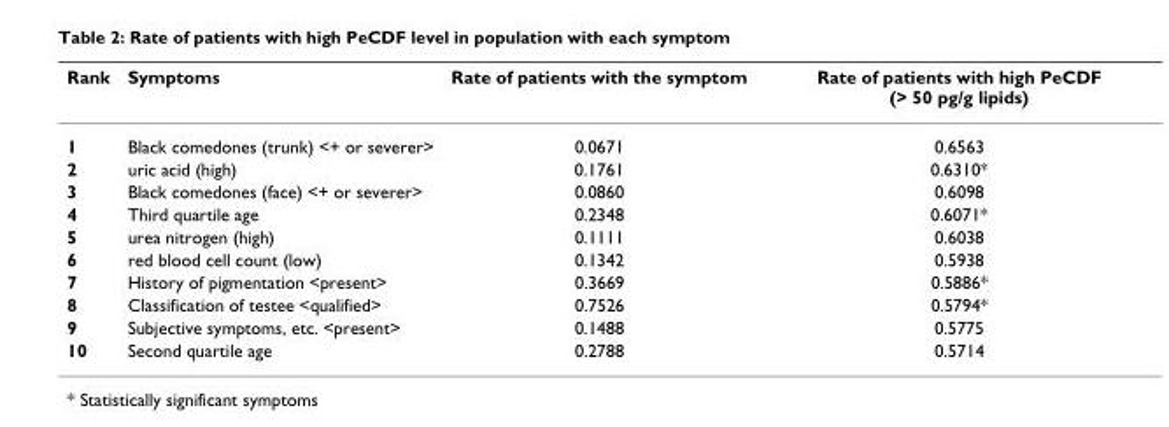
<table><thead><tr><td>Rank</td><td>Symptoms</td><td>Rate of patients with the symptom</td><td>Rate of patients with high PeCDF (&gt; 50 pg/g lipids)</td></tr></thead><tbody><tr><td>1</td><td>Black comedones (trunk) &lt;+ or severer&gt;</td><td>0.0671</td><td>0.6563</td></tr><tr><td>2</td><td>uric acid (high)</td><td>0.1761</td><td>0.6310*</td></tr><tr><td>3</td><td>Black comedones (face) &lt;+ or severer&gt;</td><td>0.0860</td><td>0.6098</td></tr><tr><td>4</td><td>Third quartile age</td><td>0.2348</td><td>0.6071*</td></tr><tr><td>5</td><td>urea nitrogen (high)</td><td>0.1111</td><td>0.6038</td></tr><tr><td>6</td><td>red blood cell count (low)</td><td>0.1342</td><td>0.5938</td></tr><tr><td>7</td><td>History of pigmentation &lt;present&gt;</td><td>0.3669</td><td>0.5886*</td></tr><tr><td>8</td><td>Classification of testee &lt;qualified&gt;</td><td>0.7526</td><td>0.5794*</td></tr><tr><td>9</td><td>Subjective symptoms, etc. &lt;present&gt;</td><td>0.1488</td><td>0.5775</td></tr><tr><td>10</td><td>Second quartile age</td><td>0.2788</td><td>0.5714</td></tr></tbody></table>